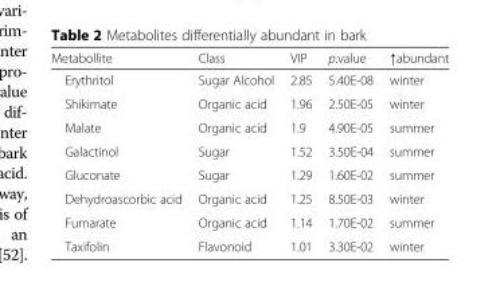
<table><thead><tr><td>Metabollite</td><td>Class</td><td>VIP</td><td>p.value</td><td>↑abundant</td></tr></thead><tbody><tr><td>Erythritol</td><td>Sugar Alcohol</td><td>2.85</td><td>5.40E-08</td><td>winter</td></tr><tr><td>Shikimate</td><td>Organic acid</td><td>1.96</td><td>2.50E-05</td><td>winter</td></tr><tr><td>Malate</td><td>Organic acid</td><td>1.9</td><td>4.90E-05</td><td>summer</td></tr><tr><td>Galactinol</td><td>Sugar</td><td>1.52</td><td>3.50E-04</td><td>summer</td></tr><tr><td>Gluconate</td><td>Sugar</td><td>1.29</td><td>1.60E-02</td><td>summer</td></tr><tr><td>Dehydroascorbic acid</td><td>Organic acid</td><td>1.25</td><td>8.50E-03</td><td>winter</td></tr><tr><td>Fumarate</td><td>Organic acid</td><td>1.14</td><td>1.70E-02</td><td>summer</td></tr><tr><td>Taxifolin</td><td>Flavonoid</td><td>1.01</td><td>3.30E-02</td><td>winter</td></tr></tbody></table>